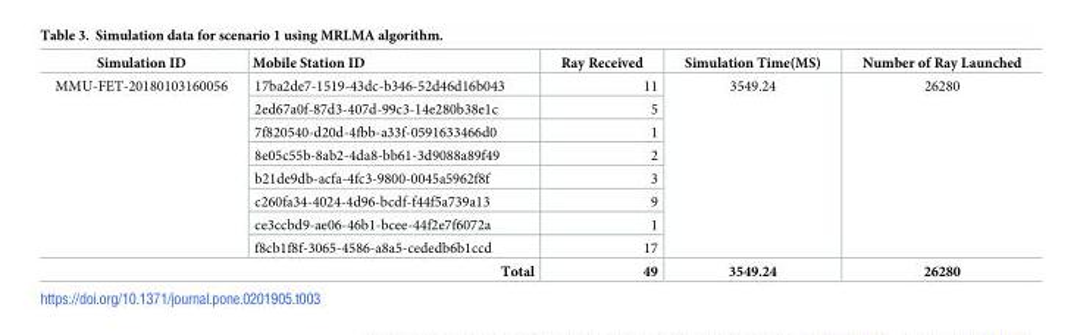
<table><thead><tr><td>Simulation ID</td><td>Mobile Station ID</td><td>Ray Received</td><td>Simulation Time(MS)</td><td>Number of Ray Launched</td></tr></thead><tbody><tr><td rowspan="8">MMU-FET-20180103160056</td><td>17ba2de7-1519-43dc-b346-52d46d16b043</td><td>11</td><td rowspan="8">3549.24</td><td rowspan="8">26280</td></tr><tr><td>2ed67a0f-87d3-407d-99c3-14e280b38e1c</td><td>5</td></tr><tr><td>7f820540-d20d-4fbb-a33f-0591633466d0</td><td>1</td></tr><tr><td>8e05c55b-8ab2-4da8-bb61-3d9088a89f49</td><td>2</td></tr><tr><td>b21de9db-acfa-4fc3-9800-0045a5962f8f</td><td>3</td></tr><tr><td>c260fa34-4024-4d96-bcdf-f44f5a739a13</td><td>9</td></tr><tr><td>ce3ccbd9-ae06-46b1-bcee-44f2e7f6072a</td><td>1</td></tr><tr><td>f8cb1f8f-3065-4586-a8a5-cededb6b1ccd</td><td>17</td></tr><tr><td colspan="2">Total</td><td>49</td><td>3549.24</td><td>26280</td></tr></tbody></table>